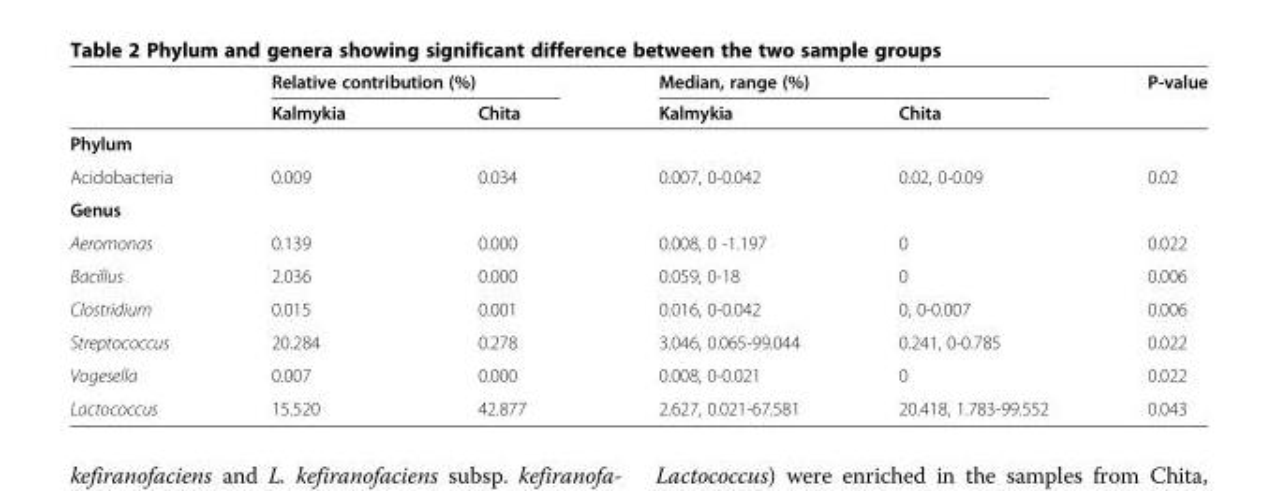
<table><thead><tr><td rowspan="2"></td><td colspan="2">Relative contribution (%)</td><td colspan="2">Median, range (%)</td><td rowspan="2">P-value</td></tr><tr><td>Kalmykia</td><td>Chita</td><td>Kalmykia</td><td>Chita</td></tr></thead><tbody><tr><td colspan="6">Phylum</td></tr><tr><td>Acidobacteria</td><td>0.009</td><td>0.034</td><td>0.007, 0-0.042</td><td>0.02, 0-0.09</td><td>0.02</td></tr><tr><td colspan="6">Genus</td></tr><tr><td>Aeromonas</td><td>0.139</td><td>0.000</td><td>0.008, 0 -1.197</td><td>0</td><td>0.022</td></tr><tr><td>Bacillus</td><td>2.036</td><td>0.000</td><td>0.059, 0-18</td><td>0</td><td>0.006</td></tr><tr><td>Clostridium</td><td>0.015</td><td>0.001</td><td>0.016, 0-0.042</td><td>0, 0-0.007</td><td>0.006</td></tr><tr><td>Streptococcus</td><td>20.284</td><td>0.278</td><td>3.046, 0.065-99.044</td><td>0.241, 0-0.785</td><td>0.022</td></tr><tr><td>Vogesella</td><td>0.007</td><td>0.000</td><td>0.008, 0-0.021</td><td>0</td><td>0.022</td></tr><tr><td>Lactococcus</td><td>15.520</td><td>42.877</td><td>2.627, 0.021-67.581</td><td>20.418, 1.783-99.552</td><td>0.043</td></tr></tbody></table>